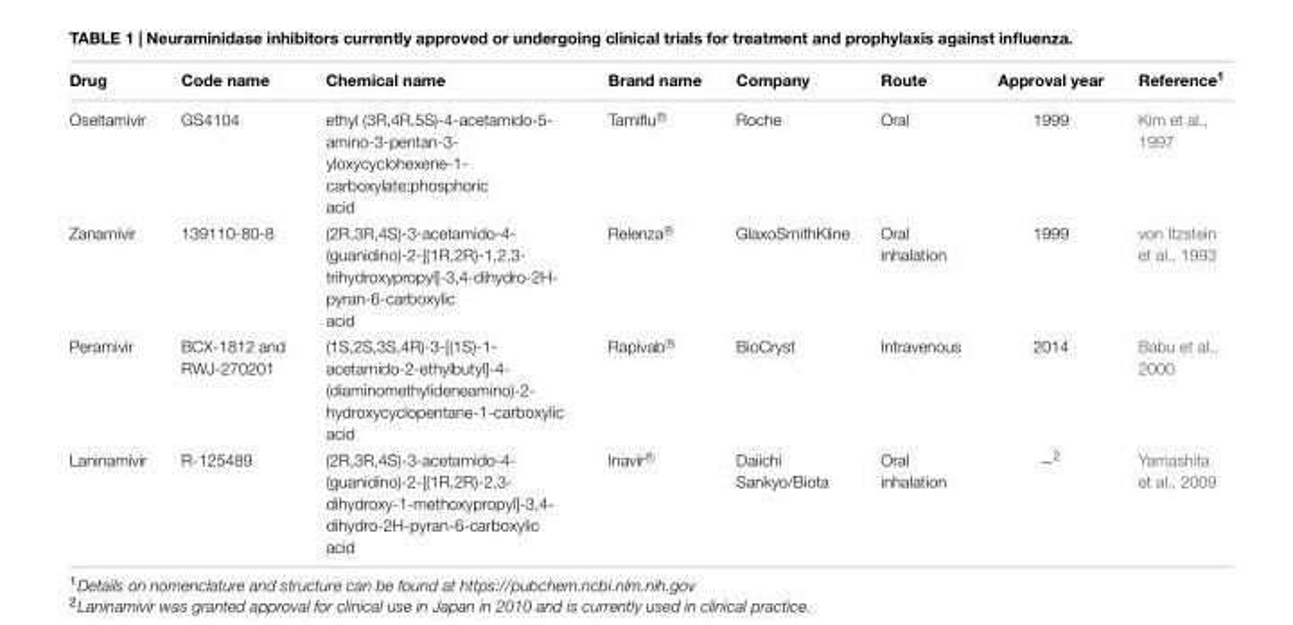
<table><thead><tr><td>Drug</td><td>Code name</td><td>Chemical name</td><td>Brand name</td><td>Company</td><td>Route</td><td>Approval year</td><td>Reference<sup>1</sup></td></tr></thead><tbody><tr><td>Oseltamivir</td><td>GS4104</td><td>ethyl (3R,4R,5S)-4-acetamido-5- amino-3-pentan-3- yloxycyclohexene-1- carboxylate;phosphoric acid</td><td>Tamiflu R⃝</td><td>Roche</td><td>Oral</td><td>1999</td><td>Kim et al., 1997</td></tr><tr><td>Zanamivir</td><td>139110-80-8</td><td>(2R,3R,4S)-3-acetamido-4- (guanidino)-2-[(1R,2R)-1,2,3- trihydroxypropyl]-3,4-dihydro-2H- pyran-6-carboxylic acid</td><td>Relenza R⃝</td><td>GlaxoSmithKline</td><td>Oral inhalation</td><td>1999</td><td>von Itzstein et al., 1993</td></tr><tr><td>Peramivir</td><td>BCX-1812 and RWJ-270201</td><td>(1S,2S,3S,4R)-3-[(1S)-1- acetamido-2-ethylbutyl]-4- (diaminomethylideneamino)-2- hydroxycyclopentane-1-carboxylic acid</td><td>Rapivab R⃝</td><td>BioCryst</td><td>Intravenous</td><td>2014</td><td>Babu et al., 2000</td></tr><tr><td>Laninamivir</td><td>R-125489</td><td>(2R,3R,4S)-3-acetamido-4- (guanidino)-2-[(1R,2R)-2,3- dihydroxy-1-methoxypropyl]-3,4- dihydro-2H-pyran-6-carboxylic acid</td><td>Inavir R⃝</td><td>Daiichi Sankyo/Biota</td><td>Oral inhalation</td><td>−<sup>2</sup></td><td>Yamashita et al., 2009</td></tr></tbody></table>